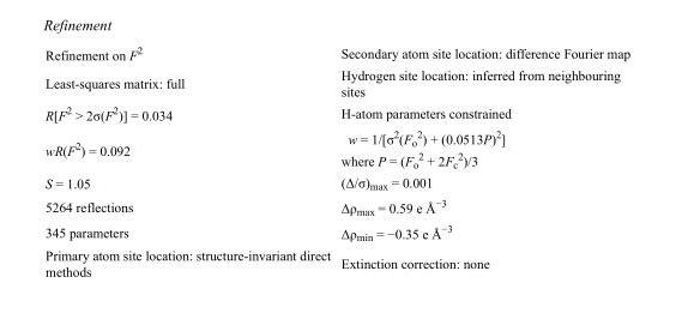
<table><tbody><tr><td>Refinement on F<sup>2</sup></td><td>Secondary atom site location: difference Fourier map</td></tr><tr><td>Least-squares matrix: full</td><td>Hydrogen site location: inferred from neighbouring sites</td></tr><tr><td>R[F<sup>2</sup> &gt; 2σ(F<sup>2</sup>)] = 0.034</td><td>H-atom parameters constrained</td></tr><tr><td>wR(F<sup>2</sup>) = 0.092</td><td>w = 1/[σ<sup>2</sup>(F<sub>o</sub> <sup>2</sup>) + (0.0513P)<sup>2</sup>] where P = (F<sub>o</sub> <sup>2</sup> + 2F<sub>c</sub> <sup>2</sup>)/3</td></tr><tr><td>S = 1.05</td><td>(Δ/σ)<sub>max</sub> = 0.001</td></tr><tr><td>5264 reflections</td><td>Δρ<sub>max</sub> = 0.59 e Å<sup>−3</sup></td></tr><tr><td>345 parameters</td><td>Δρ<sub>min</sub> = −0.35 e Å<sup>−3</sup></td></tr><tr><td>Primary atom site location: structure-invariant direct methods</td><td>Extinction correction: none</td></tr></tbody></table>